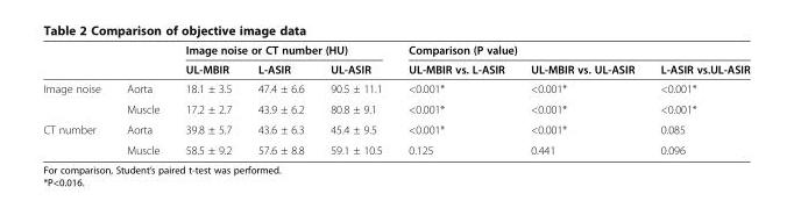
<table><thead><tr><td rowspan="2"></td><td rowspan="2"></td><td colspan="3">Image noise or CT number (HU)</td><td colspan="3">Comparison (P value)</td></tr><tr><td>UL-MBIR</td><td>L-ASIR</td><td>UL-ASIR</td><td>UL-MBIR vs. L-ASIR</td><td>UL-MBIR vs. UL-ASIR</td><td>L-ASIR vs.UL-ASIR</td></tr></thead><tbody><tr><td rowspan="2">Image noise</td><td>Aorta</td><td>18.1 ± 3.5</td><td>47.4 ± 6.6</td><td>90.5 ± 11.1</td><td>&lt;0.001*</td><td>&lt;0.001*</td><td>&lt;0.001*</td></tr><tr><td>Muscle</td><td>17.2 ± 2.7</td><td>43.9 ± 6.2</td><td>80.8 ± 9.1</td><td>&lt;0.001*</td><td>&lt;0.001*</td><td>&lt;0.001*</td></tr><tr><td rowspan="2">CT number</td><td>Aorta</td><td>39.8 ± 5.7</td><td>43.6 ± 6.3</td><td>45.4 ± 9.5</td><td>&lt;0.001*</td><td>&lt;0.001*</td><td>0.085</td></tr><tr><td>Muscle</td><td>58.5 ± 9.2</td><td>57.6 ± 8.8</td><td>59.1 ± 10.5</td><td>0.125</td><td>0.441</td><td>0.096</td></tr></tbody></table>